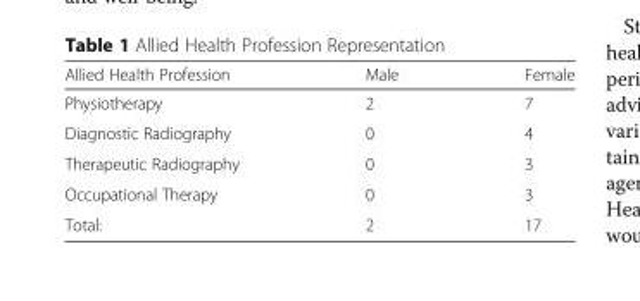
<table><thead><tr><td>Allied Health Profession</td><td>Male</td><td>Female</td></tr></thead><tbody><tr><td>Physiotherapy</td><td>2</td><td>7</td></tr><tr><td>Diagnostic Radiography</td><td>0</td><td>4</td></tr><tr><td>Therapeutic Radiography</td><td>0</td><td>3</td></tr><tr><td>Occupational Therapy</td><td>0</td><td>3</td></tr><tr><td>Total:</td><td>2</td><td>17</td></tr></tbody></table>